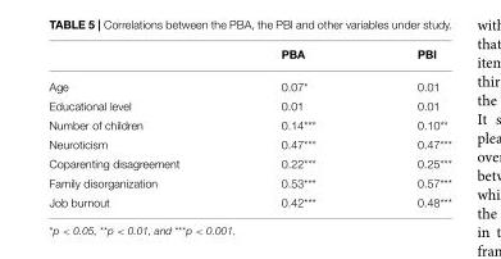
<table><thead><tr><td></td><td>PBA</td><td>PBI</td></tr></thead><tbody><tr><td>Age</td><td>0.07*</td><td>0.01</td></tr><tr><td>Educational level</td><td>0.01</td><td>0.01</td></tr><tr><td>Number of children</td><td>0.14***</td><td>0.10**</td></tr><tr><td>Neuroticism</td><td>0.47***</td><td>0.47***</td></tr><tr><td>Coparenting disagreement</td><td>0.22***</td><td>0.25***</td></tr><tr><td>Family disorganization</td><td>0.53***</td><td>0.57***</td></tr><tr><td>Job burnout</td><td>0.42***</td><td>0.48***</td></tr></tbody></table>